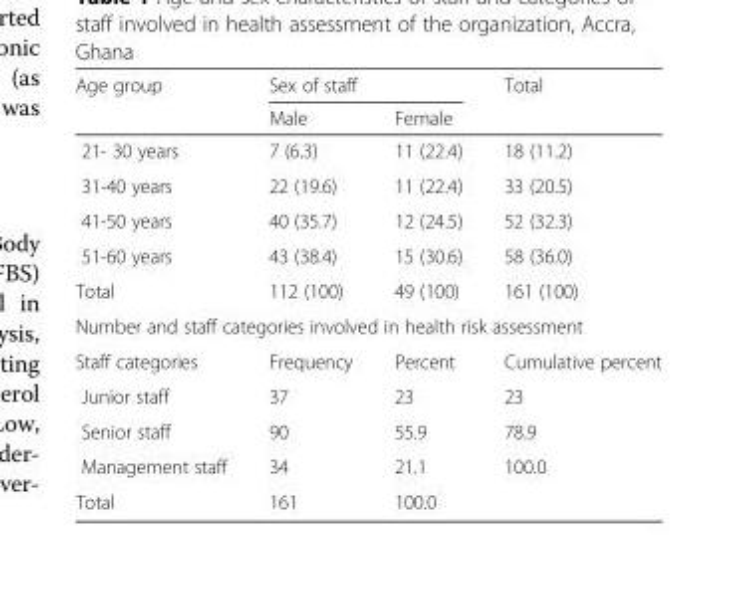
<table><thead><tr><td rowspan="2">Age group</td><td colspan="2">Sex of staff</td><td rowspan="2">Total</td></tr><tr><td>Male</td><td>Female</td></tr></thead><tbody><tr><td>21- 30 years</td><td>7 (6.3)</td><td>11 (22.4)</td><td>18 (11.2)</td></tr><tr><td>31-40 years</td><td>22 (19.6)</td><td>11 (22.4)</td><td>33 (20.5)</td></tr><tr><td>41-50 years</td><td>40 (35.7)</td><td>12 (24.5)</td><td>52 (32.3)</td></tr><tr><td>51-60 years</td><td>43 (38.4)</td><td>15 (30.6)</td><td>58 (36.0)</td></tr><tr><td>Total</td><td>112 (100)</td><td>49 (100)</td><td>161 (100)</td></tr><tr><td colspan="4">Number and staff categories involved in health risk assessment</td></tr><tr><td>Staff categories</td><td>Frequency</td><td>Percent</td><td>Cumulative percent</td></tr><tr><td>Junior staff</td><td>37</td><td>23</td><td>23</td></tr><tr><td>Senior staff</td><td>90</td><td>55.9</td><td>78.9</td></tr><tr><td>Management staff</td><td>34</td><td>21.1</td><td>100.0</td></tr><tr><td>Total</td><td>161</td><td>100.0</td><td></td></tr></tbody></table>